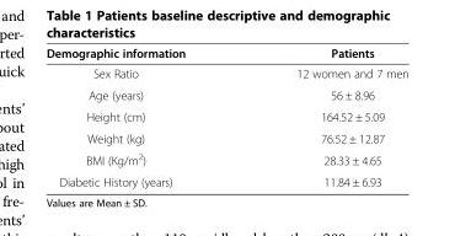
<table><thead><tr><td>Demographic information</td><td>Patients</td></tr></thead><tbody><tr><td>Sex Ratio</td><td>12 women and 7 men</td></tr><tr><td>Age (years)</td><td>56 ± 8.96</td></tr><tr><td>Height (cm)</td><td>164.52 ± 5.09</td></tr><tr><td>Weight (kg)</td><td>76.52 ± 12.87</td></tr><tr><td>BMI (Kg/m<sup>2</sup>)</td><td>28.33 ± 4.65</td></tr><tr><td>Diabetic History (years)</td><td>11.84 ± 6.93</td></tr></tbody></table>